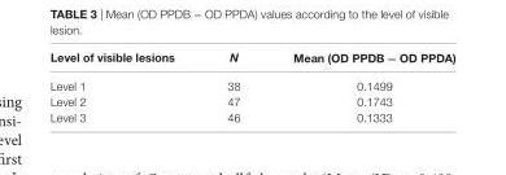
<table><thead><tr><td>level of visible lesions</td><td>N</td><td>Mean (OD PPDB − OD PPDa)</td></tr></thead><tbody><tr><td>Level 1</td><td>38</td><td>0.1499</td></tr><tr><td>Level 2</td><td>47</td><td>0.1743</td></tr><tr><td>Level 3</td><td>46</td><td>0.1333</td></tr></tbody></table>